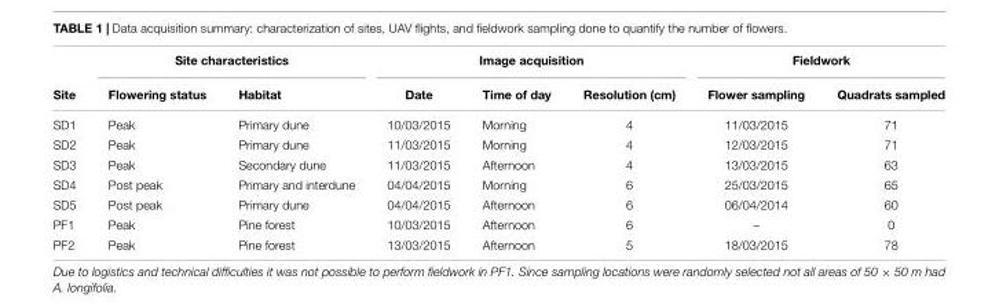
<table><thead><tr><td rowspan="2">Site</td><td colspan="2">Site characteristics</td><td colspan="3">Image acquisition</td><td colspan="2">Fieldwork</td></tr><tr><td>Flowering status</td><td>Habitat</td><td>Date</td><td>Time of day</td><td>Resolution (cm)</td><td>Flower sampling</td><td>Quadrats sampled</td></tr></thead><tbody><tr><td>SD1</td><td>Peak</td><td>Primary dune</td><td>10/03/2015</td><td>Morning</td><td>4</td><td>11/03/2015</td><td>71</td></tr><tr><td>SD2</td><td>Peak</td><td>Primary dune</td><td>11/03/2015</td><td>Morning</td><td>4</td><td>12/03/2015</td><td>71</td></tr><tr><td>SD3</td><td>Peak</td><td>Secondary dune</td><td>11/03/2015</td><td>Afternoon</td><td>4</td><td>13/03/2015</td><td>63</td></tr><tr><td>SD4</td><td>Post peak</td><td>Primary and interdune</td><td>04/04/2015</td><td>Morning</td><td>6</td><td>25/03/2015</td><td>65</td></tr><tr><td>SD5</td><td>Post peak</td><td>Primary dune</td><td>04/04/2015</td><td>Afternoon</td><td>6</td><td>06/04/2014</td><td>60</td></tr><tr><td>PF1</td><td>Peak</td><td>Pine forest</td><td>10/03/2015</td><td>Afternoon</td><td>6</td><td>–</td><td>0</td></tr><tr><td>PF2</td><td>Peak</td><td>Pine forest</td><td>13/03/2015</td><td>Afternoon</td><td>5</td><td>18/03/2015</td><td>78</td></tr></tbody></table>